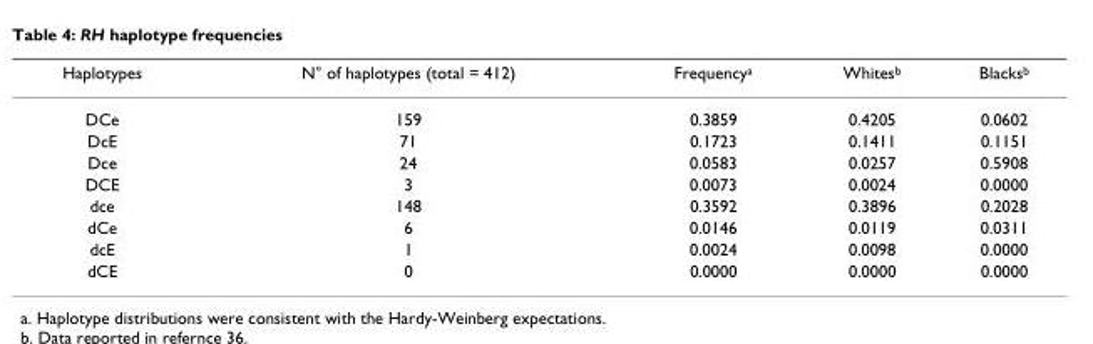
<table><thead><tr><td>Haplotypes</td><td>N° of haplotypes (total = 412)</td><td>Frequency<sup>a</sup></td><td>Whites<sup>b</sup></td><td>Blacks<sup>b</sup></td></tr></thead><tbody><tr><td>DCe</td><td>159</td><td>0.3859</td><td>0.4205</td><td>0.0602</td></tr><tr><td>DcE</td><td>71</td><td>0.1723</td><td>0.1411</td><td>0.1151</td></tr><tr><td>Dce</td><td>24</td><td>0.0583</td><td>0.0257</td><td>0.5908</td></tr><tr><td>DCE</td><td>3</td><td>0.0073</td><td>0.0024</td><td>0.0000</td></tr><tr><td>dce</td><td>148</td><td>0.3592</td><td>0.3896</td><td>0.2028</td></tr><tr><td>dCe</td><td>6</td><td>0.0146</td><td>0.0119</td><td>0.0311</td></tr><tr><td>dcE</td><td>1</td><td>0.0024</td><td>0.0098</td><td>0.0000</td></tr><tr><td>dCE</td><td>0</td><td>0.0000</td><td>0.0000</td><td>0.0000</td></tr></tbody></table>